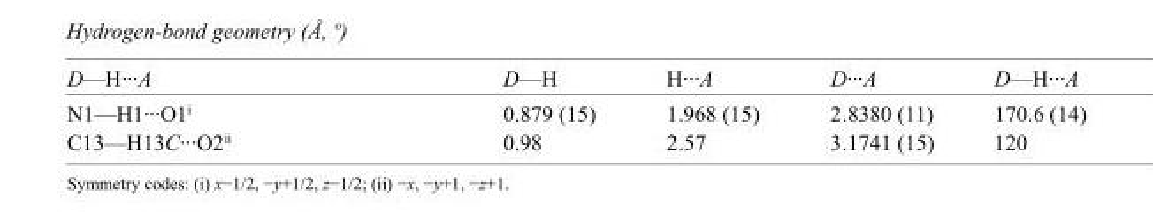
<table><tbody><tr><td>D—H···A</td><td>D—H</td><td>H···A</td><td>D···A</td><td>D—H···A</td></tr><tr><td>N1—H1···O1<sup>i</sup></td><td>0.879 (15)</td><td>1.968 (15)</td><td>2.8380 (11)</td><td>170.6 (14)</td></tr><tr><td>C13—H13C···O2<sup>ii</sup></td><td>0.98</td><td>2.57</td><td>3.1741 (15)</td><td>120</td></tr></tbody></table>